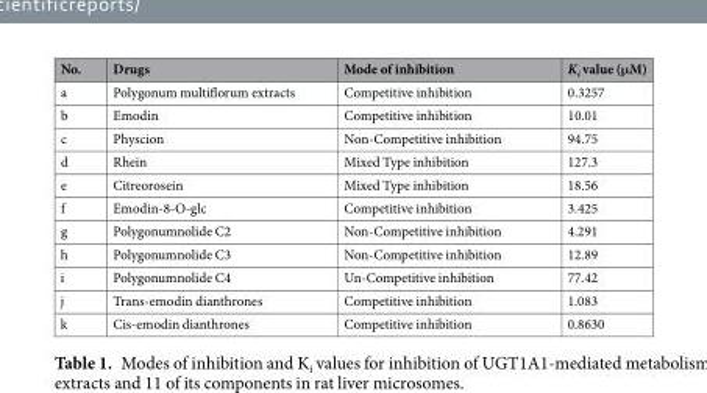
<table><thead><tr><td>No.</td><td>Drugs</td><td>Mode of inhibition</td><td>K<sub>i</sub> value (μM)</td></tr></thead><tbody><tr><td>a</td><td>Polygonum multiflorum extracts</td><td>Competitive inhibition</td><td>0.3257</td></tr><tr><td>b</td><td>Emodin</td><td>Competitive inhibition</td><td>10.01</td></tr><tr><td>c</td><td>Physcion</td><td>Non-Competitive inhibition</td><td>94.75</td></tr><tr><td>d</td><td>Rhein</td><td>Mixed Type inhibition</td><td>127.3</td></tr><tr><td>e</td><td>Citreorosein</td><td>Mixed Type inhibition</td><td>18.56</td></tr><tr><td>f</td><td>Emodin-8-O-glc</td><td>Competitive inhibition</td><td>3.425</td></tr><tr><td>g</td><td>Polygonumnolide C2</td><td>Non-Competitive inhibition</td><td>4.291</td></tr><tr><td>h</td><td>Polygonumnolide C3</td><td>Non-Competitive inhibition</td><td>12.89</td></tr><tr><td>i</td><td>Polygonumnolide C4</td><td>Un-Competitive inhibition</td><td>77.42</td></tr><tr><td>j</td><td>Trans-emodin dianthrones</td><td>Competitive inhibition</td><td>1.083</td></tr><tr><td>k</td><td>Cis-emodin dianthrones</td><td>Competitive inhibition</td><td>0.8630</td></tr></tbody></table>